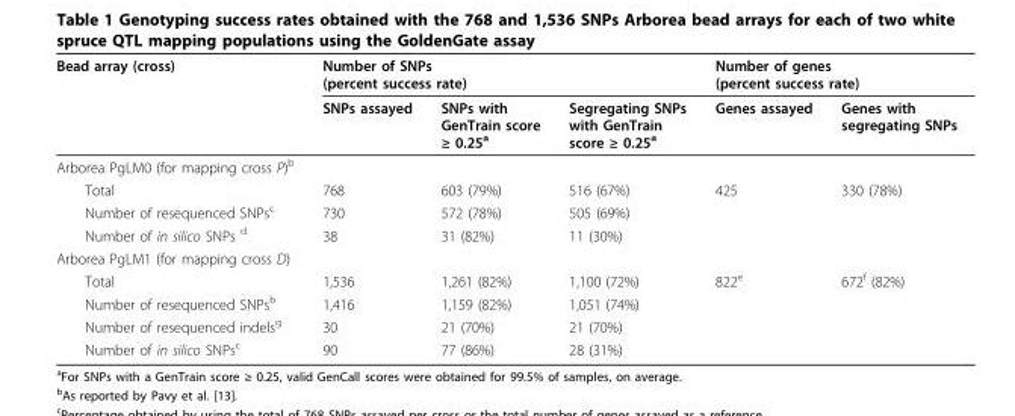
<table><thead><tr><td rowspan="2">Bead array (cross)</td><td colspan="3">Number of SNPs (percent success rate)</td><td colspan="2">Number of genes (percent success rate)</td></tr><tr><td>SNPs assayed</td><td>SNPs with GenTrain score ≥ 0.25<sup>a</sup></td><td>Segregating SNPs with GenTrain score ≥ 0.25<sup>a</sup></td><td>Genes assayed</td><td>Genes with segregating SNPs</td></tr></thead><tbody><tr><td colspan="6">Arborea PgLM0 (for mapping cross P)<sup>b</sup></td></tr><tr><td>Total</td><td>768</td><td>603 (79%)</td><td>516 (67%)</td><td>425</td><td>330 (78%)</td></tr><tr><td>Number of resequenced SNPs<sup>c</sup></td><td>730</td><td>572 (78%)</td><td>505 (69%)</td><td></td><td></td></tr><tr><td>Number of in silico SNPs <sup>d</sup></td><td>38</td><td>31 (82%)</td><td>11 (30%)</td><td></td><td></td></tr><tr><td colspan="6">Arborea PgLM1 (for mapping cross D)</td></tr><tr><td>Total</td><td>1,536</td><td>1,261 (82%)</td><td>1,100 (72%)</td><td>822<sup>e</sup></td><td>672<sup>f</sup> (82%)</td></tr><tr><td>Number of resequenced SNPs<sup>b</sup></td><td>1,416</td><td>1,159 (82%)</td><td>1,051 (74%)</td><td></td><td></td></tr><tr><td>Number of resequenced indels<sup>g</sup></td><td>30</td><td>21 (70%)</td><td>21 (70%)</td><td></td><td></td></tr><tr><td>Number of in silico SNPs<sup>c</sup></td><td>90</td><td>77 (86%)</td><td>28 (31%)</td><td></td><td></td></tr></tbody></table>